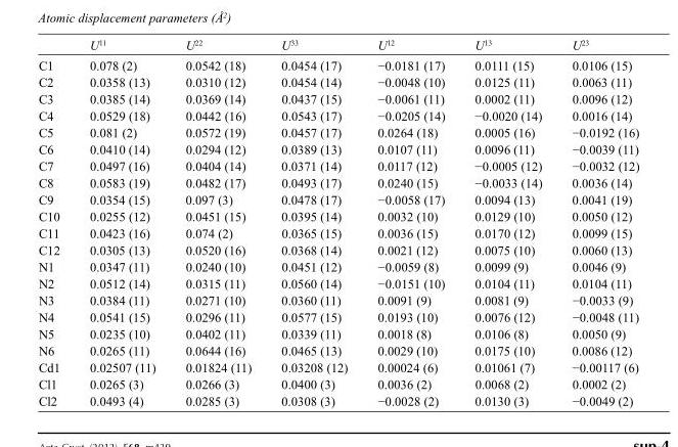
<table><thead><tr><td></td><td>U<sup>11</sup></td><td>U<sup>22</sup></td><td>U<sup>33</sup></td><td>U<sup>12</sup></td><td>U<sup>13</sup></td><td>U<sup>23</sup></td></tr></thead><tbody><tr><td>C1</td><td>0.078 (2)</td><td>0.0542 (18)</td><td>0.0454 (17)</td><td>−0.0181 (17)</td><td>0.0111 (15)</td><td>0.0106 (15)</td></tr><tr><td>C2</td><td>0.0358 (13)</td><td>0.0310 (12)</td><td>0.0454 (14)</td><td>−0.0048 (10)</td><td>0.0125 (11)</td><td>0.0063 (11)</td></tr><tr><td>C3</td><td>0.0385 (14)</td><td>0.0369 (14)</td><td>0.0437 (15)</td><td>−0.0061 (11)</td><td>0.0002 (11)</td><td>0.0096 (12)</td></tr><tr><td>C4</td><td>0.0529 (18)</td><td>0.0442 (16)</td><td>0.0543 (17)</td><td>−0.0205 (14)</td><td>−0.0020 (14)</td><td>0.0016 (14)</td></tr><tr><td>C5</td><td>0.081 (2)</td><td>0.0572 (19)</td><td>0.0457 (17)</td><td>0.0264 (18)</td><td>0.0005 (16)</td><td>−0.0192 (16)</td></tr><tr><td>C6</td><td>0.0410 (14)</td><td>0.0294 (12)</td><td>0.0389 (13)</td><td>0.0107 (11)</td><td>0.0096 (11)</td><td>−0.0039 (11)</td></tr><tr><td>C7</td><td>0.0497 (16)</td><td>0.0404 (14)</td><td>0.0371 (14)</td><td>0.0117 (12)</td><td>−0.0005 (12)</td><td>−0.0032 (12)</td></tr><tr><td>C8</td><td>0.0583 (19)</td><td>0.0482 (17)</td><td>0.0493 (17)</td><td>0.0240 (15)</td><td>−0.0033 (14)</td><td>0.0036 (14)</td></tr><tr><td>C9</td><td>0.0354 (15)</td><td>0.097 (3)</td><td>0.0478 (17)</td><td>−0.0058 (17)</td><td>0.0094 (13)</td><td>0.0041 (19)</td></tr><tr><td>C10</td><td>0.0255 (12)</td><td>0.0451 (15)</td><td>0.0395 (14)</td><td>0.0032 (10)</td><td>0.0129 (10)</td><td>0.0050 (12)</td></tr><tr><td>C11</td><td>0.0423 (16)</td><td>0.074 (2)</td><td>0.0365 (15)</td><td>0.0036 (15)</td><td>0.0170 (12)</td><td>0.0099 (15)</td></tr><tr><td>C12</td><td>0.0305 (13)</td><td>0.0520 (16)</td><td>0.0368 (14)</td><td>0.0021 (12)</td><td>0.0075 (10)</td><td>0.0060 (13)</td></tr><tr><td>N1</td><td>0.0347 (11)</td><td>0.0240 (10)</td><td>0.0451 (12)</td><td>−0.0059 (8)</td><td>0.0099 (9)</td><td>0.0046 (9)</td></tr><tr><td>N2</td><td>0.0512 (14)</td><td>0.0315 (11)</td><td>0.0560 (14)</td><td>−0.0151 (10)</td><td>0.0104 (11)</td><td>0.0104 (11)</td></tr><tr><td>N3</td><td>0.0384 (11)</td><td>0.0271 (10)</td><td>0.0360 (11)</td><td>0.0091 (9)</td><td>0.0081 (9)</td><td>−0.0033 (9)</td></tr><tr><td>N4</td><td>0.0541 (15)</td><td>0.0296 (11)</td><td>0.0577 (15)</td><td>0.0193 (10)</td><td>0.0076 (12)</td><td>−0.0048 (11)</td></tr><tr><td>N5</td><td>0.0235 (10)</td><td>0.0402 (11)</td><td>0.0339 (11)</td><td>0.0018 (8)</td><td>0.0106 (8)</td><td>0.0050 (9)</td></tr><tr><td>N6</td><td>0.0265 (11)</td><td>0.0644 (16)</td><td>0.0465 (13)</td><td>0.0029 (10)</td><td>0.0175 (10)</td><td>0.0086 (12)</td></tr><tr><td>Cd1</td><td>0.02507 (11)</td><td>0.01824 (11)</td><td>0.03208 (12)</td><td>0.00024 (6)</td><td>0.01061 (7)</td><td>−0.00117 (6)</td></tr><tr><td>Cl1</td><td>0.0265 (3)</td><td>0.0266 (3)</td><td>0.0400 (3)</td><td>0.0036 (2)</td><td>0.0068 (2)</td><td>0.0002 (2)</td></tr><tr><td>Cl2</td><td>0.0493 (4)</td><td>0.0285 (3)</td><td>0.0308 (3)</td><td>−0.0028 (2)</td><td>0.0130 (3)</td><td>−0.0049 (2)</td></tr></tbody></table>